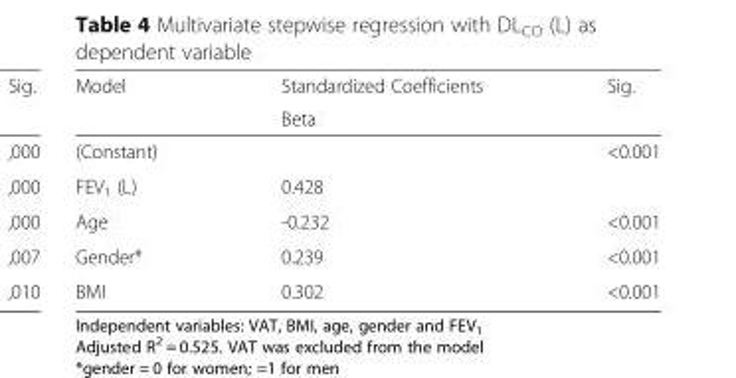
<table><thead><tr><td rowspan="2">Model</td><td rowspan="2">Standardized Coefficients Beta</td><td rowspan="2">Sig.</td></tr><tr></tr></thead><tbody><tr><td>(Constant)</td><td></td><td>&lt;0.001</td></tr><tr><td>FEV<sub>1</sub> (L)</td><td>0.428</td><td></td></tr><tr><td>Age</td><td>-0.232</td><td>&lt;0.001</td></tr><tr><td>Gender*</td><td>0.239</td><td>&lt;0.001</td></tr><tr><td>BMI</td><td>0.302</td><td>&lt;0.001</td></tr></tbody></table>